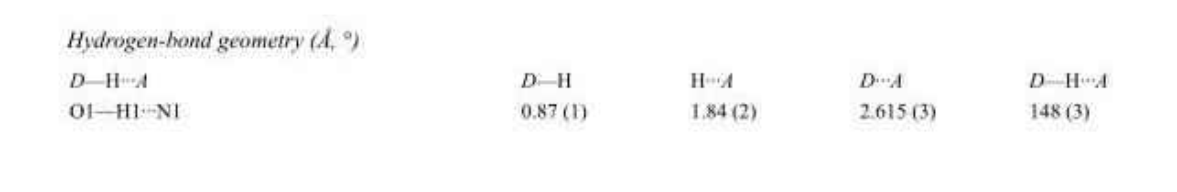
<table><tbody><tr><td>D—H···A</td><td>D—H</td><td>H···A</td><td>D···A</td><td>D—H···A</td></tr><tr><td>O1—H1···N1</td><td>0.87 (1)</td><td>1.84 (2)</td><td>2.615 (3)</td><td>148 (3)</td></tr></tbody></table>